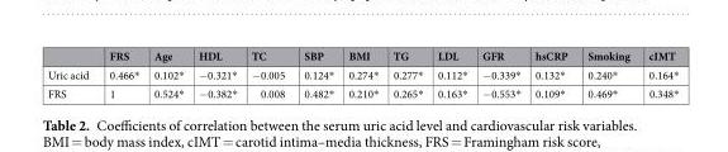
<table><thead><tr><td></td><td>FRS</td><td>Age</td><td>HDL</td><td>TC</td><td>SBP</td><td>BMI</td><td>TG</td><td>LDL</td><td>GFR</td><td>hsCRP</td><td>Smoking</td><td>cIMT</td></tr></thead><tbody><tr><td>Uric acid</td><td>0.466*</td><td>0.102*</td><td>−0.321*</td><td>−0.005</td><td>0.124*</td><td>0.274*</td><td>0.277*</td><td>0.112*</td><td>−0.339*</td><td>0.132*</td><td>0.240*</td><td>0.164*</td></tr><tr><td>FRS</td><td>1</td><td>0.524*</td><td>−0.382*</td><td>0.008</td><td>0.482*</td><td>0.210*</td><td>0.265*</td><td>0.163*</td><td>−0.553*</td><td>0.109*</td><td>0.469*</td><td>0.348*</td></tr></tbody></table>